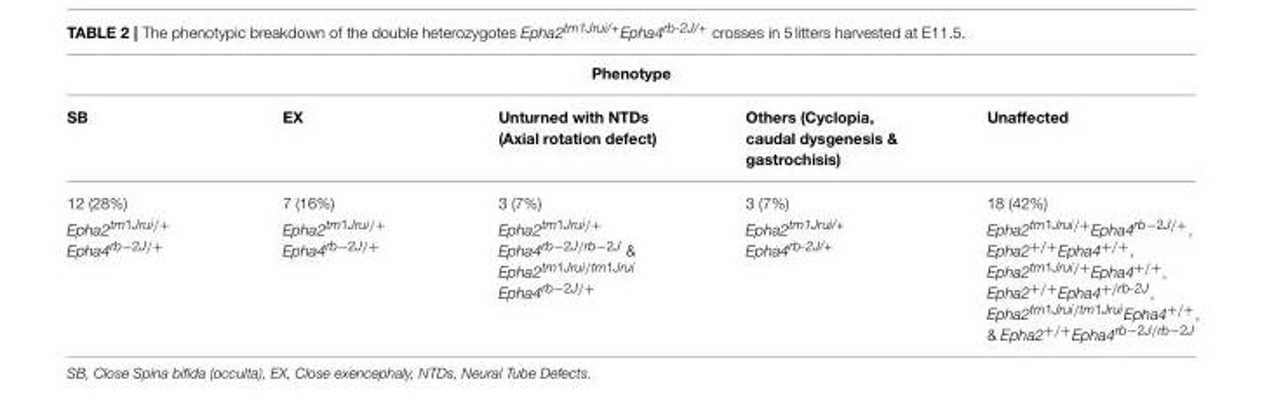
<table><thead><tr><td colspan="5">Phenotype</td></tr><tr><td>SB</td><td>EX</td><td>Unturned with NTDs (Axial rotation defect)</td><td>Others (Cyclopia, caudal dysgenesis &amp; gastrochisis)</td><td>Unaffected</td></tr></thead><tbody><tr><td>12 (28%)</td><td>7 (16%)</td><td>3 (7%)</td><td>3 (7%)</td><td>18 (42%)</td></tr><tr><td>Epha2tm1Jrui/+ Epha4rb−2J/+</td><td>Epha2tm1Jrui/+ Epha4rb−2J/+</td><td>Epha2tm1Jrui/+ Epha4rb−2J/rb−2J &amp; Epha2tm1Jrui/tm1Jrui Epha4rb−2J/+</td><td>Epha2tm1Jrui/+ Epha4rb-2J/+</td><td>Epha2tm1Jrui/+Epha4rb−2J/+, Epha2+/+Epha4+/+, Epha2tm1Jrui/+Epha4+/+, Epha2+/+Epha4+/rb-2J, Epha2tm1Jrui/tm1JruiEpha4+/+, &amp; Epha2+/+Epha4rb−2J/rb−2J</td></tr></tbody></table>